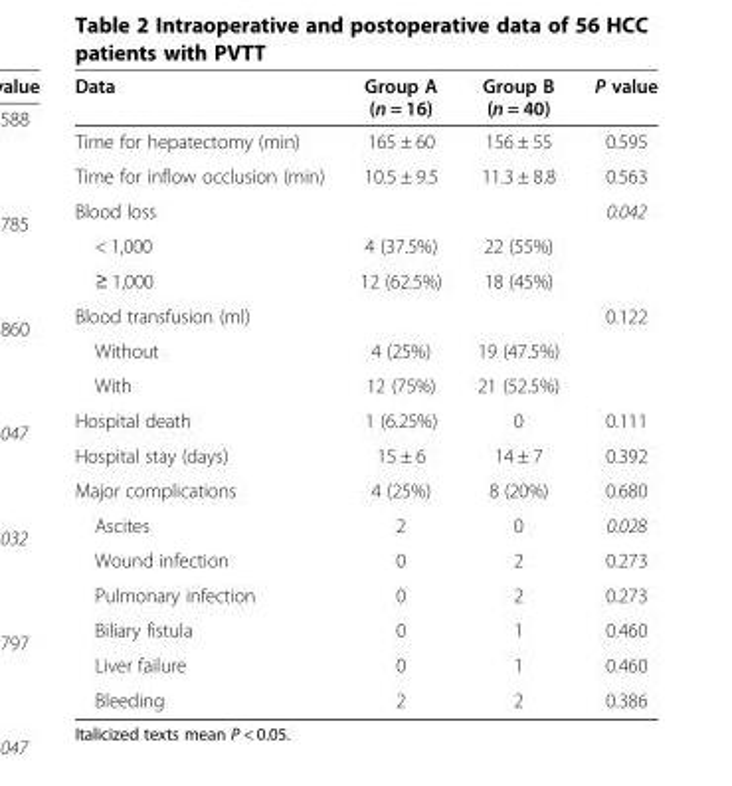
<table><thead><tr><td>Data</td><td>Group A (n = 16)</td><td>Group B (n = 40)</td><td>P value</td></tr></thead><tbody><tr><td>Time for hepatectomy (min)</td><td>165 ± 60</td><td>156 ± 55</td><td>0.595</td></tr><tr><td>Time for inflow occlusion (min)</td><td>10.5 ± 9.5</td><td>11.3 ± 8.8</td><td>0.563</td></tr><tr><td>Blood loss</td><td></td><td></td><td>0.042</td></tr><tr><td>&lt; 1,000</td><td>4 (37.5%)</td><td>22 (55%)</td><td></td></tr><tr><td>≥ 1,000</td><td>12 (62.5%)</td><td>18 (45%)</td><td></td></tr><tr><td>Blood transfusion (ml)</td><td></td><td></td><td>0.122</td></tr><tr><td>Without</td><td>4 (25%)</td><td>19 (47.5%)</td><td></td></tr><tr><td>With</td><td>12 (75%)</td><td>21 (52.5%)</td><td></td></tr><tr><td>Hospital death</td><td>1 (6.25%)</td><td>0</td><td>0.111</td></tr><tr><td>Hospital stay (days)</td><td>15 ± 6</td><td>14 ± 7</td><td>0.392</td></tr><tr><td>Major complications</td><td>4 (25%)</td><td>8 (20%)</td><td>0.680</td></tr><tr><td>Ascites</td><td>2</td><td>0</td><td>0.028</td></tr><tr><td>Wound infection</td><td>0</td><td>2</td><td>0.273</td></tr><tr><td>Pulmonary infection</td><td>0</td><td>2</td><td>0.273</td></tr><tr><td>Biliary fistula</td><td>0</td><td>1</td><td>0.460</td></tr><tr><td>Liver failure</td><td>0</td><td>1</td><td>0.460</td></tr><tr><td>Bleeding</td><td>2</td><td>2</td><td>0.386</td></tr></tbody></table>